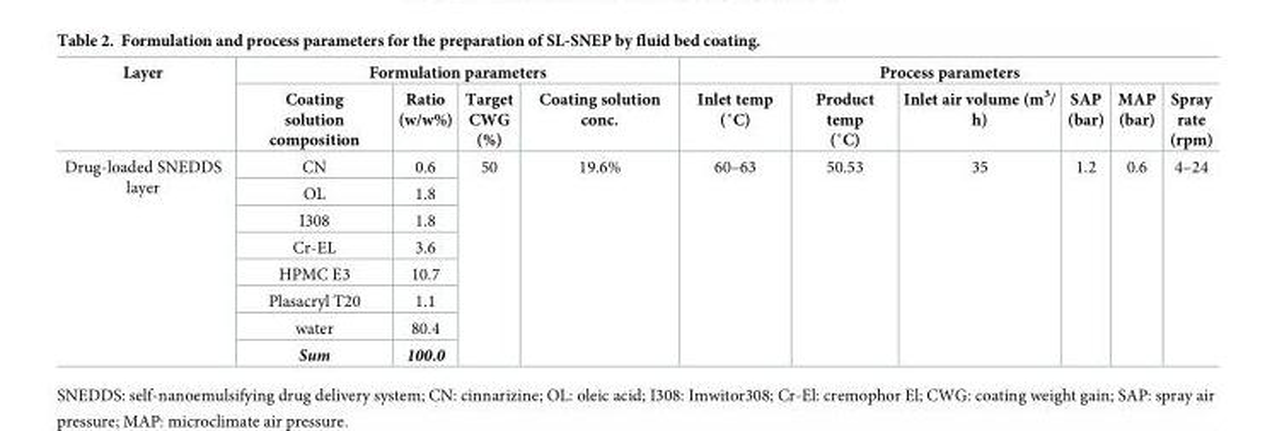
<table><thead><tr><td rowspan="2">Layer</td><td colspan="4">Formulation parameters</td><td colspan="6">Process parameters</td></tr><tr><td>Coating solution composition</td><td>Ratio (w/w%)</td><td>Target CWG (%)</td><td>Coating solution conc.</td><td>Inlet temp (˚C)</td><td>Product temp (˚C)</td><td>Inlet air volume (m<sup>3</sup>/ h)</td><td>SAP (bar)</td><td>MAP (bar)</td><td>Spray rate (rpm)</td></tr></thead><tbody><tr><td rowspan="8">Drug-loaded SNEDDS layer</td><td>CN</td><td>0.6</td><td rowspan="8">50</td><td rowspan="8">19.6%</td><td rowspan="8">60–63</td><td rowspan="8">50.53</td><td rowspan="8">35</td><td rowspan="8">1.2</td><td rowspan="8">0.6</td><td rowspan="8">4–24</td></tr><tr><td>OL</td><td>1.8</td></tr><tr><td>I308</td><td>1.8</td></tr><tr><td>Cr-EL</td><td>3.6</td></tr><tr><td>HPMC E3</td><td>10.7</td></tr><tr><td>Plasacryl T20</td><td>1.1</td></tr><tr><td>water</td><td>80.4</td></tr><tr><td>Sum</td><td>100.0</td></tr></tbody></table>